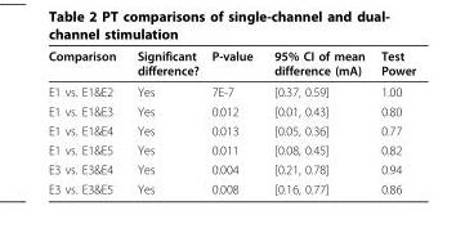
<table><thead><tr><td>Comparison</td><td>Significant difference?</td><td>P-value</td><td>95% CI of mean difference (mA)</td><td>Test Power</td></tr></thead><tbody><tr><td>E1 vs. E1&amp;E2</td><td>Yes</td><td>7E-7</td><td>[0.37, 0.59]</td><td>1.00</td></tr><tr><td>E1 vs. E1&amp;E3</td><td>Yes</td><td>0.012</td><td>[0.01, 0.43]</td><td>0.80</td></tr><tr><td>E1 vs. E1&amp;E4</td><td>Yes</td><td>0.013</td><td>[0.05, 0.36]</td><td>0.77</td></tr><tr><td>E1 vs. E1&amp;E5</td><td>Yes</td><td>0.011</td><td>[0.08, 0.45]</td><td>0.82</td></tr><tr><td>E3 vs. E3&amp;E4</td><td>Yes</td><td>0.004</td><td>[0.21, 0.78]</td><td>0.94</td></tr><tr><td>E3 vs. E3&amp;E5</td><td>Yes</td><td>0.008</td><td>[0.16, 0.77]</td><td>0.86</td></tr></tbody></table>